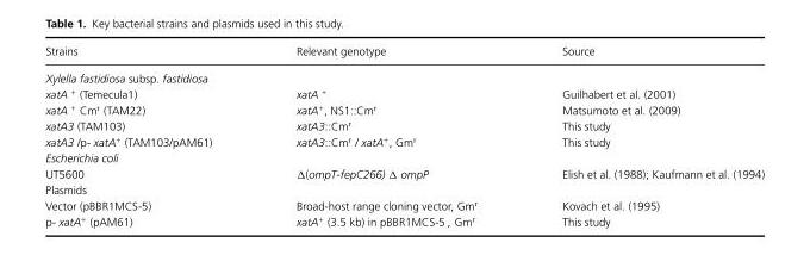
<table><thead><tr><td>Strains</td><td>Relevant genotype</td><td>Source</td></tr></thead><tbody><tr><td colspan="3">Xylella fastidiosa subsp. fastidiosa</td></tr><tr><td>xatA <sup>+</sup> (Temecula1)</td><td>xatA <sup>+</sup></td><td>Guilhabert et al. (2001)</td></tr><tr><td>xatA <sup>+</sup> Cm<sup>r</sup> (TAM22)</td><td>xatA<sup>+</sup>, NS1::Cm<sup>r</sup></td><td>Matsumoto et al. (2009)</td></tr><tr><td>xatA3 (TAM103)</td><td>xatA3::Cm<sup>r</sup></td><td>This study</td></tr><tr><td>xatA3 /p- xatA<sup>+</sup> (TAM103/pAM61)</td><td>xatA3::Cm<sup>r</sup> / xatA<sup>+</sup>, Gm<sup>r</sup></td><td>This study</td></tr><tr><td colspan="3">Escherichia coli</td></tr><tr><td>UT5600</td><td>Δ(ompT-fepC266) Δ ompP</td><td>Elish et al. (1988); Kaufmann et al. (1994)</td></tr><tr><td colspan="3">Plasmids</td></tr><tr><td>Vector (pBBR1MCS-5)</td><td>Broad-host range cloning vector, Gm<sup>r</sup></td><td>Kovach et al. (1995)</td></tr><tr><td>p- xatA<sup>+</sup> (pAM61)</td><td>xatA<sup>+</sup> (3.5 kb) in pBBR1MCS-5 , Gm<sup>r</sup></td><td>This study</td></tr></tbody></table>